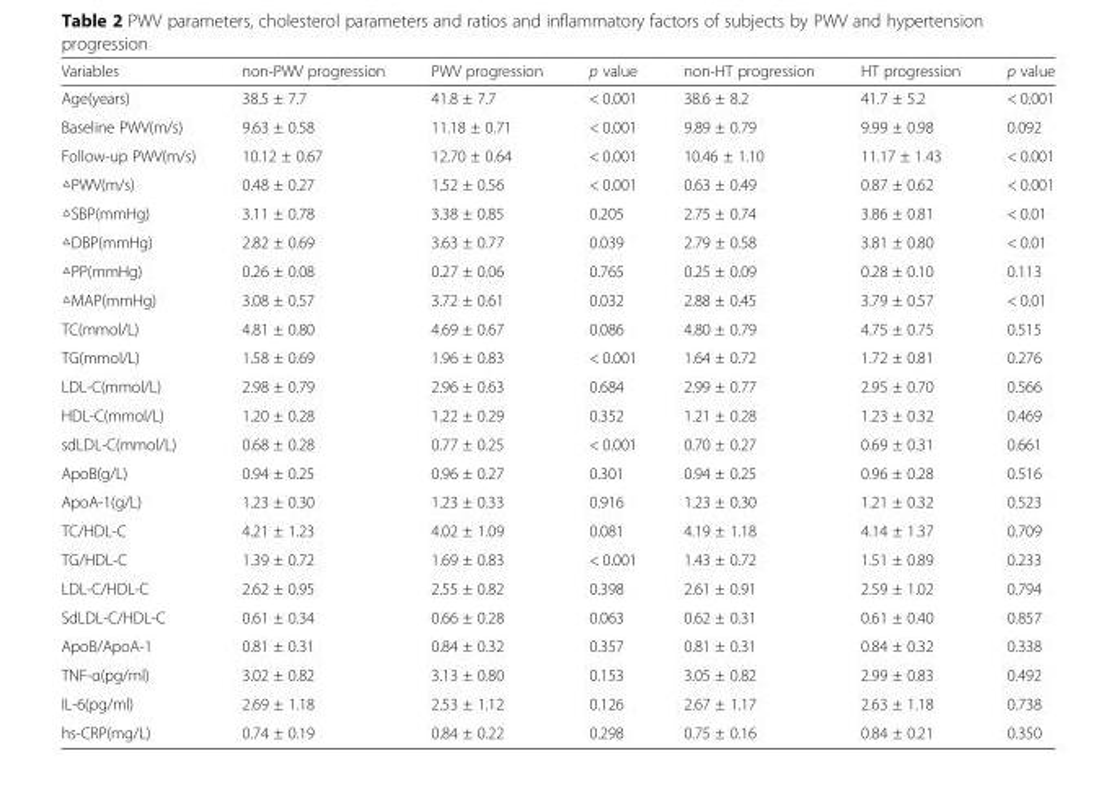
<table><thead><tr><td>Variables</td><td>non-PWV progression</td><td>PWV progression</td><td>p value</td><td>non-HT progression</td><td>HT progression</td><td>p value</td></tr></thead><tbody><tr><td>Age(years)</td><td>38.5 ± 7.7</td><td>41.8 ± 7.7</td><td>&lt; 0.001</td><td>38.6 ± 8.2</td><td>41.7 ± 5.2</td><td>&lt; 0.001</td></tr><tr><td>Baseline PWV(m/s)</td><td>9.63 ± 0.58</td><td>11.18 ± 0.71</td><td>&lt; 0.001</td><td>9.89 ± 0.79</td><td>9.99 ± 0.98</td><td>0.092</td></tr><tr><td>Follow-up PWV(m/s)</td><td>10.12 ± 0.67</td><td>12.70 ± 0.64</td><td>&lt; 0.001</td><td>10.46 ± 1.10</td><td>11.17 ± 1.43</td><td>&lt; 0.001</td></tr><tr><td>△PWV(m/s)</td><td>0.48 ± 0.27</td><td>1.52 ± 0.56</td><td>&lt; 0.001</td><td>0.63 ± 0.49</td><td>0.87 ± 0.62</td><td>&lt; 0.001</td></tr><tr><td>△SBP(mmHg)</td><td>3.11 ± 0.78</td><td>3.38 ± 0.85</td><td>0.205</td><td>2.75 ± 0.74</td><td>3.86 ± 0.81</td><td>&lt; 0.01</td></tr><tr><td>△DBP(mmHg)</td><td>2.82 ± 0.69</td><td>3.63 ± 0.77</td><td>0.039</td><td>2.79 ± 0.58</td><td>3.81 ± 0.80</td><td>&lt; 0.01</td></tr><tr><td>△PP(mmHg)</td><td>0.26 ± 0.08</td><td>0.27 ± 0.06</td><td>0.765</td><td>0.25 ± 0.09</td><td>0.28 ± 0.10</td><td>0.113</td></tr><tr><td>△MAP(mmHg)</td><td>3.08 ± 0.57</td><td>3.72 ± 0.61</td><td>0.032</td><td>2.88 ± 0.45</td><td>3.79 ± 0.57</td><td>&lt; 0.01</td></tr><tr><td>TC(mmol/L)</td><td>4.81 ± 0.80</td><td>4.69 ± 0.67</td><td>0.086</td><td>4.80 ± 0.79</td><td>4.75 ± 0.75</td><td>0.515</td></tr><tr><td>TG(mmol/L)</td><td>1.58 ± 0.69</td><td>1.96 ± 0.83</td><td>&lt; 0.001</td><td>1.64 ± 0.72</td><td>1.72 ± 0.81</td><td>0.276</td></tr><tr><td>LDL-C(mmol/L)</td><td>2.98 ± 0.79</td><td>2.96 ± 0.63</td><td>0.684</td><td>2.99 ± 0.77</td><td>2.95 ± 0.70</td><td>0.566</td></tr><tr><td>HDL-C(mmol/L)</td><td>1.20 ± 0.28</td><td>1.22 ± 0.29</td><td>0.352</td><td>1.21 ± 0.28</td><td>1.23 ± 0.32</td><td>0.469</td></tr><tr><td>sdLDL-C(mmol/L)</td><td>0.68 ± 0.28</td><td>0.77 ± 0.25</td><td>&lt; 0.001</td><td>0.70 ± 0.27</td><td>0.69 ± 0.31</td><td>0.661</td></tr><tr><td>ApoB(g/L)</td><td>0.94 ± 0.25</td><td>0.96 ± 0.27</td><td>0.301</td><td>0.94 ± 0.25</td><td>0.96 ± 0.28</td><td>0.516</td></tr><tr><td>ApoA-1(g/L)</td><td>1.23 ± 0.30</td><td>1.23 ± 0.33</td><td>0.916</td><td>1.23 ± 0.30</td><td>1.21 ± 0.32</td><td>0.523</td></tr><tr><td>TC/HDL-C</td><td>4.21 ± 1.23</td><td>4.02 ± 1.09</td><td>0.081</td><td>4.19 ± 1.18</td><td>4.14 ± 1.37</td><td>0.709</td></tr><tr><td>TG/HDL-C</td><td>1.39 ± 0.72</td><td>1.69 ± 0.83</td><td>&lt; 0.001</td><td>1.43 ± 0.72</td><td>1.51 ± 0.89</td><td>0.233</td></tr><tr><td>LDL-C/HDL-C</td><td>2.62 ± 0.95</td><td>2.55 ± 0.82</td><td>0.398</td><td>2.61 ± 0.91</td><td>2.59 ± 1.02</td><td>0.794</td></tr><tr><td>SdLDL-C/HDL-C</td><td>0.61 ± 0.34</td><td>0.66 ± 0.28</td><td>0.063</td><td>0.62 ± 0.31</td><td>0.61 ± 0.40</td><td>0.857</td></tr><tr><td>ApoB/ApoA-1</td><td>0.81 ± 0.31</td><td>0.84 ± 0.32</td><td>0.357</td><td>0.81 ± 0.31</td><td>0.84 ± 0.32</td><td>0.338</td></tr><tr><td>TNF-α(pg/ml)</td><td>3.02 ± 0.82</td><td>3.13 ± 0.80</td><td>0.153</td><td>3.05 ± 0.82</td><td>2.99 ± 0.83</td><td>0.492</td></tr><tr><td>IL-6(pg/ml)</td><td>2.69 ± 1.18</td><td>2.53 ± 1.12</td><td>0.126</td><td>2.67 ± 1.17</td><td>2.63 ± 1.18</td><td>0.738</td></tr><tr><td>hs-CRP(mg/L)</td><td>0.74 ± 0.19</td><td>0.84 ± 0.22</td><td>0.298</td><td>0.75 ± 0.16</td><td>0.84 ± 0.21</td><td>0.350</td></tr></tbody></table>